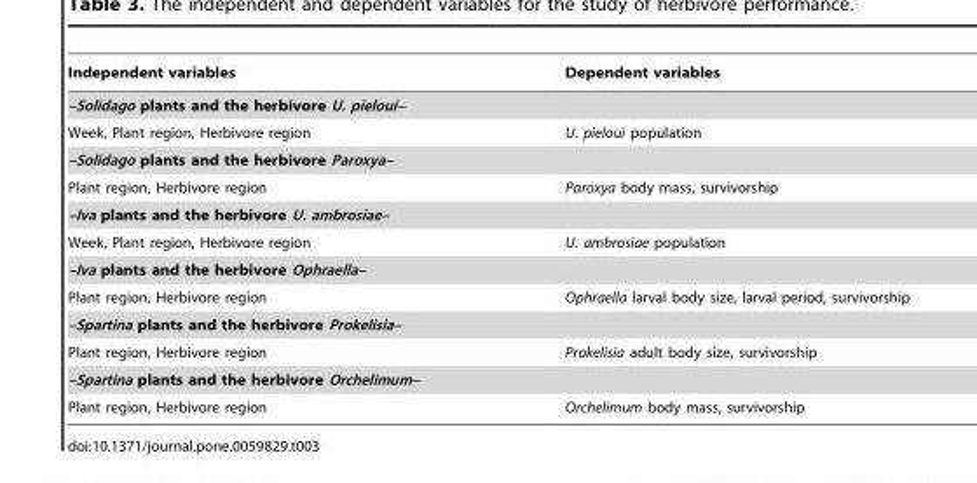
<table><thead><tr><td>Independent variables</td><td>Dependent variables</td></tr></thead><tbody><tr><td colspan="2">–Solidago plants and the herbivore U. pieloui–</td></tr><tr><td>Week, Plant region, Herbivore region</td><td>U. pieloui population</td></tr><tr><td colspan="2">–Solidago plants and the herbivore Paroxya–</td></tr><tr><td>Plant region, Herbivore region</td><td>Paroxya body mass, survivorship</td></tr><tr><td colspan="2">–Iva plants and the herbivore U. ambrosiae–</td></tr><tr><td>Week, Plant region, Herbivore region</td><td>U. ambrosiae population</td></tr><tr><td colspan="2">–Iva plants and the herbivore Ophraella–</td></tr><tr><td>Plant region, Herbivore region</td><td>Ophraella larval body size, larval period, survivorship</td></tr><tr><td colspan="2">–Spartina plants and the herbivore Prokelisia–</td></tr><tr><td>Plant region, Herbivore region</td><td>Prokelisia adult body size, survivorship</td></tr><tr><td colspan="2">–Spartina plants and the herbivore Orchelimum–</td></tr><tr><td>Plant region, Herbivore region</td><td>Orchelimum body mass, survivorship</td></tr></tbody></table>